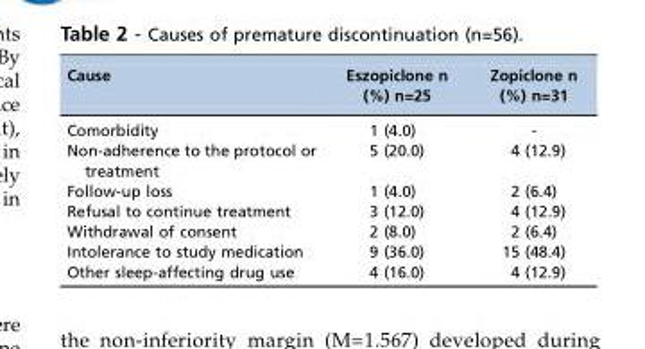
<table><thead><tr><td>Cause</td><td>Eszopiclone n (%) n=25</td><td>Zopiclone n (%) n=31</td></tr></thead><tbody><tr><td>Comorbidity</td><td>1 (4.0)</td><td>-</td></tr><tr><td>Non-adherence to the protocol or treatment</td><td>5 (20.0)</td><td>4 (12.9)</td></tr><tr><td>Follow-up loss</td><td>1 (4.0)</td><td>2 (6.4)</td></tr><tr><td>Refusal to continue treatment</td><td>3 (12.0)</td><td>4 (12.9)</td></tr><tr><td>Withdrawal of consent</td><td>2 (8.0)</td><td>2 (6.4)</td></tr><tr><td>Intolerance to study medication</td><td>9 (36.0)</td><td>15 (48.4)</td></tr><tr><td>Other sleep-affecting drug use</td><td>4 (16.0)</td><td>4 (12.9)</td></tr></tbody></table>